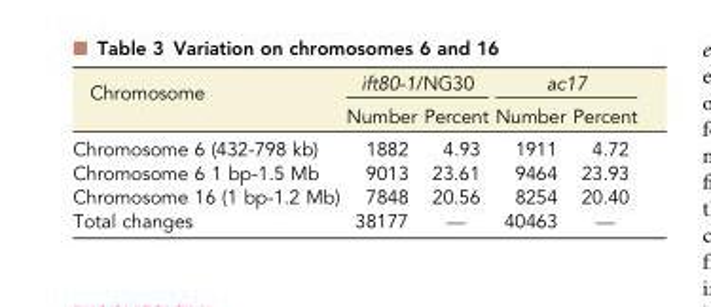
<table><thead><tr><td rowspan="2">Chromosome</td><td colspan="2">ift80-1/NG30</td><td colspan="2">ac17</td></tr><tr><td>Number</td><td>Percent</td><td>Number</td><td>Percent</td></tr></thead><tbody><tr><td>Chromosome 6 (432-798 kb)</td><td>1882</td><td>4.93</td><td>1911</td><td>4.72</td></tr><tr><td>Chromosome 6 1 bp-1.5 Mb</td><td>9013</td><td>23.61</td><td>9464</td><td>23.93</td></tr><tr><td>Chromosome 16 (1 bp-1.2 Mb)</td><td>7848</td><td>20.56</td><td>8254</td><td>20.40</td></tr><tr><td>Total changes</td><td>38177</td><td>—</td><td>40463</td><td>—</td></tr></tbody></table>